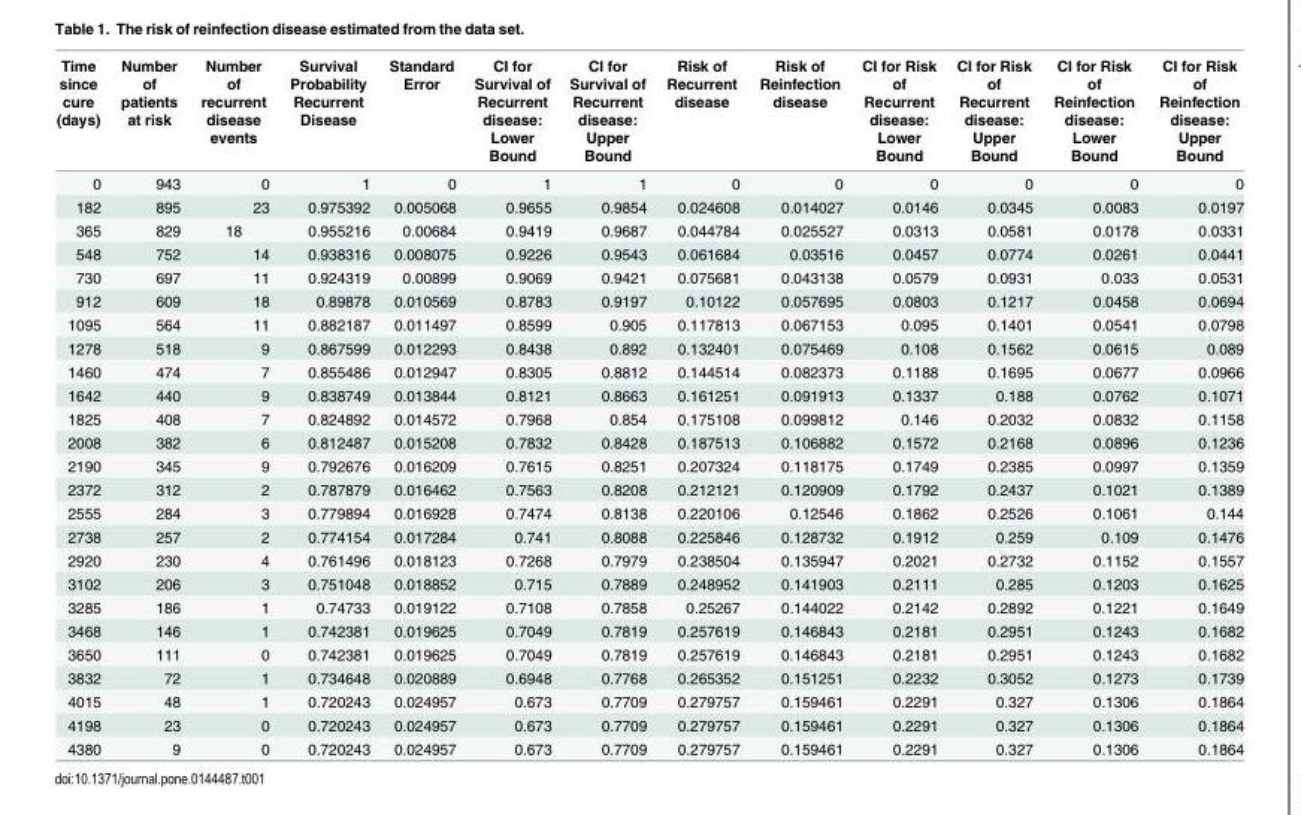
<table><thead><tr><td>Time since cure (days)</td><td>Number of patients at risk</td><td>Number of recurrent disease events</td><td>Survival Probability Recurrent Disease</td><td>Standard Error</td><td>CI for Survival of Recurrent disease: Lower Bound</td><td>CI for Survival of Recurrent disease: Upper Bound</td><td>Risk of Recurrent disease</td><td>Risk of Reinfection disease</td><td>CI for Risk of Recurrent disease: Lower Bound</td><td>CI for Risk of Recurrent disease: Upper Bound</td><td>CI for Risk of Reinfection disease: Lower Bound</td><td>CI for Risk of Reinfection disease: Upper Bound</td></tr></thead><tbody><tr><td>0</td><td>943</td><td>0</td><td>1</td><td>0</td><td>1</td><td>1</td><td>0</td><td>0</td><td>0</td><td>0</td><td>0</td><td>0</td></tr><tr><td>182</td><td>895</td><td>23</td><td>0.975392</td><td>0.005068</td><td>0.9655</td><td>0.9854</td><td>0.024608</td><td>0.014027</td><td>0.0146</td><td>0.0345</td><td>0.0083</td><td>0.0197</td></tr><tr><td>365</td><td>829</td><td>18</td><td>0.955216</td><td>0.00684</td><td>0.9419</td><td>0.9687</td><td>0.044784</td><td>0.025527</td><td>0.0313</td><td>0.0581</td><td>0.0178</td><td>0.0331</td></tr><tr><td>548</td><td>752</td><td>14</td><td>0.938316</td><td>0.008075</td><td>0.9226</td><td>0.9543</td><td>0.061684</td><td>0.03516</td><td>0.0457</td><td>0.0774</td><td>0.0261</td><td>0.0441</td></tr><tr><td>730</td><td>697</td><td>11</td><td>0.924319</td><td>0.00899</td><td>0.9069</td><td>0.9421</td><td>0.075681</td><td>0.043138</td><td>0.0579</td><td>0.0931</td><td>0.033</td><td>0.0531</td></tr><tr><td>912</td><td>609</td><td>18</td><td>0.89878</td><td>0.010569</td><td>0.8783</td><td>0.9197</td><td>0.10122</td><td>0.057695</td><td>0.0803</td><td>0.1217</td><td>0.0458</td><td>0.0694</td></tr><tr><td>1095</td><td>564</td><td>11</td><td>0.882187</td><td>0.011497</td><td>0.8599</td><td>0.905</td><td>0.117813</td><td>0.067153</td><td>0.095</td><td>0.1401</td><td>0.0541</td><td>0.0798</td></tr><tr><td>1278</td><td>518</td><td>9</td><td>0.867599</td><td>0.012293</td><td>0.8438</td><td>0.892</td><td>0.132401</td><td>0.075469</td><td>0.108</td><td>0.1562</td><td>0.0615</td><td>0.089</td></tr><tr><td>1460</td><td>474</td><td>7</td><td>0.855486</td><td>0.012947</td><td>0.8305</td><td>0.8812</td><td>0.144514</td><td>0.082373</td><td>0.1188</td><td>0.1695</td><td>0.0677</td><td>0.0966</td></tr><tr><td>1642</td><td>440</td><td>9</td><td>0.838749</td><td>0.013844</td><td>0.8121</td><td>0.8663</td><td>0.161251</td><td>0.091913</td><td>0.1337</td><td>0.188</td><td>0.0762</td><td>0.1071</td></tr><tr><td>1825</td><td>408</td><td>7</td><td>0.824892</td><td>0.014572</td><td>0.7968</td><td>0.854</td><td>0.175108</td><td>0.099812</td><td>0.146</td><td>0.2032</td><td>0.0832</td><td>0.1158</td></tr><tr><td>2008</td><td>382</td><td>6</td><td>0.812487</td><td>0.015208</td><td>0.7832</td><td>0.8428</td><td>0.187513</td><td>0.106882</td><td>0.1572</td><td>0.2168</td><td>0.0896</td><td>0.1236</td></tr><tr><td>2190</td><td>345</td><td>9</td><td>0.792676</td><td>0.016209</td><td>0.7615</td><td>0.8251</td><td>0.207324</td><td>0.118175</td><td>0.1749</td><td>0.2385</td><td>0.0997</td><td>0.1359</td></tr><tr><td>2372</td><td>312</td><td>2</td><td>0.787879</td><td>0.016462</td><td>0.7563</td><td>0.8208</td><td>0.212121</td><td>0.120909</td><td>0.1792</td><td>0.2437</td><td>0.1021</td><td>0.1389</td></tr><tr><td>2555</td><td>284</td><td>3</td><td>0.779894</td><td>0.016928</td><td>0.7474</td><td>0.8138</td><td>0.220106</td><td>0.12546</td><td>0.1862</td><td>0.2526</td><td>0.1061</td><td>0.144</td></tr><tr><td>2738</td><td>257</td><td>2</td><td>0.774154</td><td>0.017284</td><td>0.741</td><td>0.8088</td><td>0.225846</td><td>0.128732</td><td>0.1912</td><td>0.259</td><td>0.109</td><td>0.1476</td></tr><tr><td>2920</td><td>230</td><td>4</td><td>0.761496</td><td>0.018123</td><td>0.7268</td><td>0.7979</td><td>0.238504</td><td>0.135947</td><td>0.2021</td><td>0.2732</td><td>0.1152</td><td>0.1557</td></tr><tr><td>3102</td><td>206</td><td>3</td><td>0.751048</td><td>0.018852</td><td>0.715</td><td>0.7889</td><td>0.248952</td><td>0.141903</td><td>0.2111</td><td>0.285</td><td>0.1203</td><td>0.1625</td></tr><tr><td>3285</td><td>186</td><td>1</td><td>0.74733</td><td>0.019122</td><td>0.7108</td><td>0.7858</td><td>0.25267</td><td>0.144022</td><td>0.2142</td><td>0.2892</td><td>0.1221</td><td>0.1649</td></tr><tr><td>3468</td><td>146</td><td>1</td><td>0.742381</td><td>0.019625</td><td>0.7049</td><td>0.7819</td><td>0.257619</td><td>0.146843</td><td>0.2181</td><td>0.2951</td><td>0.1243</td><td>0.1682</td></tr><tr><td>3650</td><td>111</td><td>0</td><td>0.742381</td><td>0.019625</td><td>0.7049</td><td>0.7819</td><td>0.257619</td><td>0.146843</td><td>0.2181</td><td>0.2951</td><td>0.1243</td><td>0.1682</td></tr><tr><td>3832</td><td>72</td><td>1</td><td>0.734648</td><td>0.020889</td><td>0.6948</td><td>0.7768</td><td>0.265352</td><td>0.151251</td><td>0.2232</td><td>0.3052</td><td>0.1273</td><td>0.1739</td></tr><tr><td>4015</td><td>48</td><td>1</td><td>0.720243</td><td>0.024957</td><td>0.673</td><td>0.7709</td><td>0.279757</td><td>0.159461</td><td>0.2291</td><td>0.327</td><td>0.1306</td><td>0.1864</td></tr><tr><td>4198</td><td>23</td><td>0</td><td>0.720243</td><td>0.024957</td><td>0.673</td><td>0.7709</td><td>0.279757</td><td>0.159461</td><td>0.2291</td><td>0.327</td><td>0.1306</td><td>0.1864</td></tr><tr><td>4380</td><td>9</td><td>0</td><td>0.720243</td><td>0.024957</td><td>0.673</td><td>0.7709</td><td>0.279757</td><td>0.159461</td><td>0.2291</td><td>0.327</td><td>0.1306</td><td>0.1864</td></tr></tbody></table>